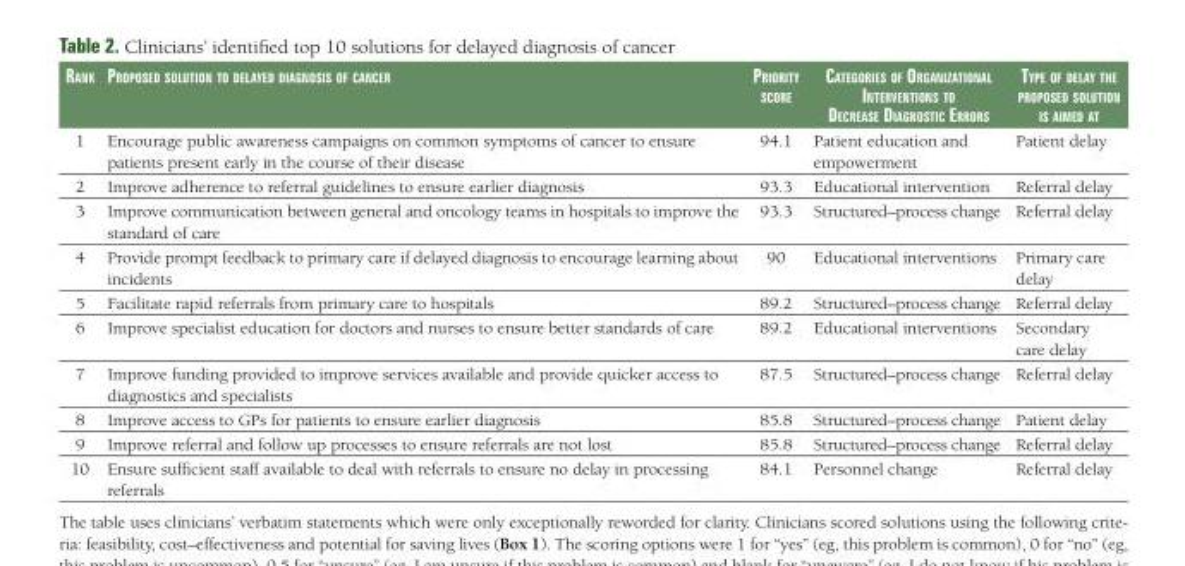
<table><thead><tr><td>Rank</td><td>PRoPosed solution to delayed diagnosis of canceR</td><td>PRioRity scoRe</td><td>categoRies of oRganizational inteRventions to decRease diagnostic eRRoRs</td><td>tyPe of delay the PRoPosed solution is aimed at</td></tr></thead><tbody><tr><td>1</td><td>Encourage public awareness campaigns on common symptoms of cancer to ensure patients present early in the course of their disease</td><td>94.1</td><td>Patient education and empowerment</td><td>Patient delay</td></tr><tr><td>2</td><td>Improve adherence to referral guidelines to ensure earlier diagnosis</td><td>93.3</td><td>Educational intervention</td><td>Referral delay</td></tr><tr><td>3</td><td>Improve communication between general and oncology teams in hospitals to improve the standard of care</td><td>93.3</td><td>Structured–process change</td><td>Referral delay</td></tr><tr><td>4</td><td>Provide prompt feedback to primary care if delayed diagnosis to encourage learning about incidents</td><td>90</td><td>Educational interventions</td><td>Primary care delay</td></tr><tr><td>5</td><td>Facilitate rapid referrals from primary care to hospitals</td><td>89.2</td><td>Structured–process change</td><td>Referral delay</td></tr><tr><td>6</td><td>Improve specialist education for doctors and nurses to ensure better standards of care</td><td>89.2</td><td>Educational interventions</td><td>Secondary care delay</td></tr><tr><td>7</td><td>Improve funding provided to improve services available and provide quicker access to diagnostics and specialists</td><td>87.5</td><td>Structured–process change</td><td>Referral delay</td></tr><tr><td>8</td><td>Improve access to GPs for patients to ensure earlier diagnosis</td><td>85.8</td><td>Structured–process change</td><td>Patient delay</td></tr><tr><td>9</td><td>Improve referral and follow up processes to ensure referrals are not lost</td><td>85.8</td><td>Structured–process change</td><td>Referral delay</td></tr><tr><td>10</td><td>Ensure sufficient staff available to deal with referrals to ensure no delay in processing referrals</td><td>84.1</td><td>Personnel change</td><td>Referral delay</td></tr></tbody></table>